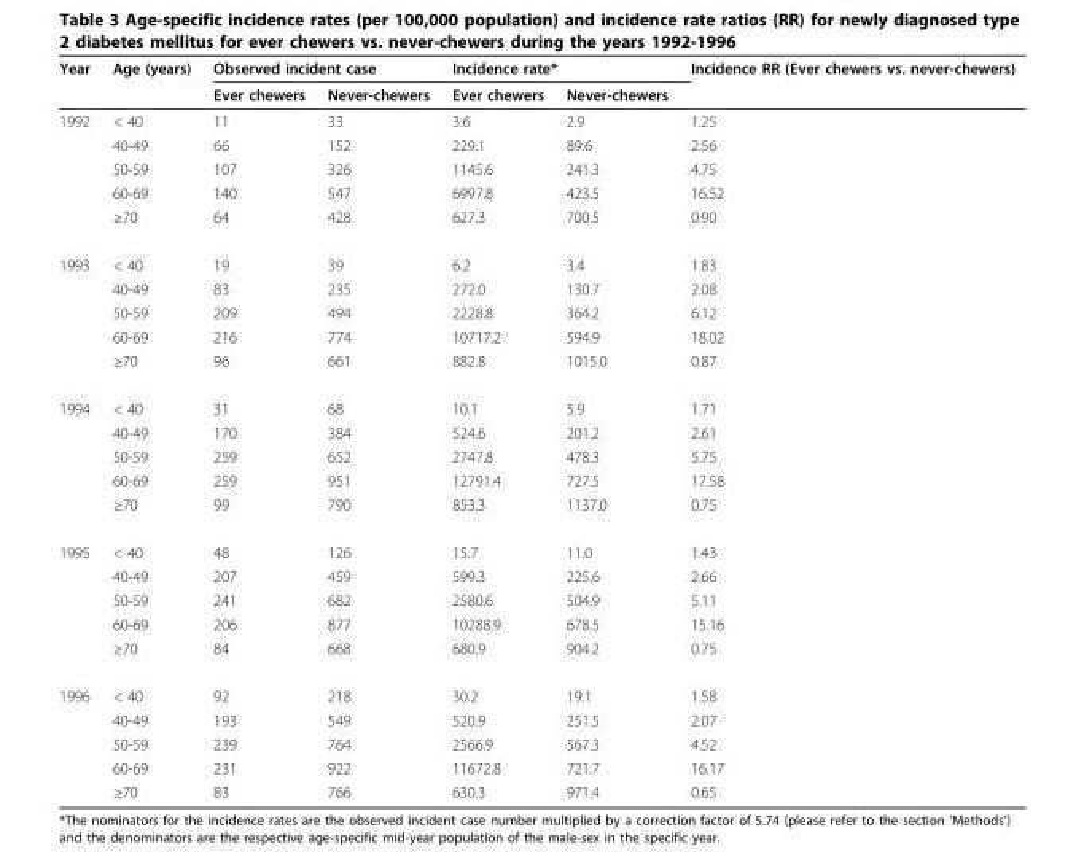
<table><thead><tr><td rowspan="2">Year</td><td rowspan="2">Age (years)</td><td colspan="2">Observed incident case</td><td colspan="2">Incidence rate*</td><td rowspan="2">Incidence RR (Ever chewers vs. never-chewers)</td></tr><tr><td>Ever chewers</td><td>Never-chewers</td><td>Ever chewers</td><td>Never-chewers</td></tr></thead><tbody><tr><td rowspan="5">1992</td><td>&lt; 40</td><td>11</td><td>33</td><td>3.6</td><td>2.9</td><td>1.25</td></tr><tr><td>40-49</td><td>66</td><td>152</td><td>229.1</td><td>89.6</td><td>2.56</td></tr><tr><td>50-59</td><td>107</td><td>326</td><td>1145.6</td><td>241.3</td><td>4.75</td></tr><tr><td>60-69</td><td>140</td><td>547</td><td>6997.8</td><td>423.5</td><td>16.52</td></tr><tr><td>≥70</td><td>64</td><td>428</td><td>627.3</td><td>700.5</td><td>0.90</td></tr><tr><td rowspan="5">1993</td><td>&lt; 40</td><td>19</td><td>39</td><td>6.2</td><td>3.4</td><td>1.83</td></tr><tr><td>40-49</td><td>83</td><td>235</td><td>272.0</td><td>130.7</td><td>2.08</td></tr><tr><td>50-59</td><td>209</td><td>494</td><td>2228.8</td><td>364.2</td><td>6.12</td></tr><tr><td>60-69</td><td>216</td><td>774</td><td>10717.2</td><td>594.9</td><td>18.02</td></tr><tr><td>≥70</td><td>96</td><td>661</td><td>882.8</td><td>1015.0</td><td>0.87</td></tr><tr><td rowspan="5">1994</td><td>&lt; 40</td><td>31</td><td>68</td><td>10.1</td><td>5.9</td><td>1.71</td></tr><tr><td>40-49</td><td>170</td><td>384</td><td>524.6</td><td>201.2</td><td>2.61</td></tr><tr><td>50-59</td><td>259</td><td>652</td><td>2747.8</td><td>478.3</td><td>5.75</td></tr><tr><td>60-69</td><td>259</td><td>951</td><td>12791.4</td><td>727.5</td><td>17.58</td></tr><tr><td>≥70</td><td>99</td><td>790</td><td>853.3</td><td>1137.0</td><td>0.75</td></tr><tr><td rowspan="5">1995</td><td>&lt; 40</td><td>48</td><td>126</td><td>15.7</td><td>11.0</td><td>1.43</td></tr><tr><td>40-49</td><td>207</td><td>459</td><td>599.3</td><td>225.6</td><td>2.66</td></tr><tr><td>50-59</td><td>241</td><td>682</td><td>2580.6</td><td>504.9</td><td>5.11</td></tr><tr><td>60-69</td><td>206</td><td>877</td><td>10288.9</td><td>678.5</td><td>15.16</td></tr><tr><td>≥70</td><td>84</td><td>668</td><td>680.9</td><td>904.2</td><td>0.75</td></tr><tr><td rowspan="5">1996</td><td>&lt; 40</td><td>92</td><td>218</td><td>30.2</td><td>19.1</td><td>1.58</td></tr><tr><td>40-49</td><td>193</td><td>549</td><td>520.9</td><td>251.5</td><td>2.07</td></tr><tr><td>50-59</td><td>239</td><td>764</td><td>2566.9</td><td>567.3</td><td>4.52</td></tr><tr><td>60-69</td><td>231</td><td>922</td><td>11672.8</td><td>721.7</td><td>16.17</td></tr><tr><td>≥70</td><td>83</td><td>766</td><td>630.3</td><td>971.4</td><td>0.65</td></tr></tbody></table>